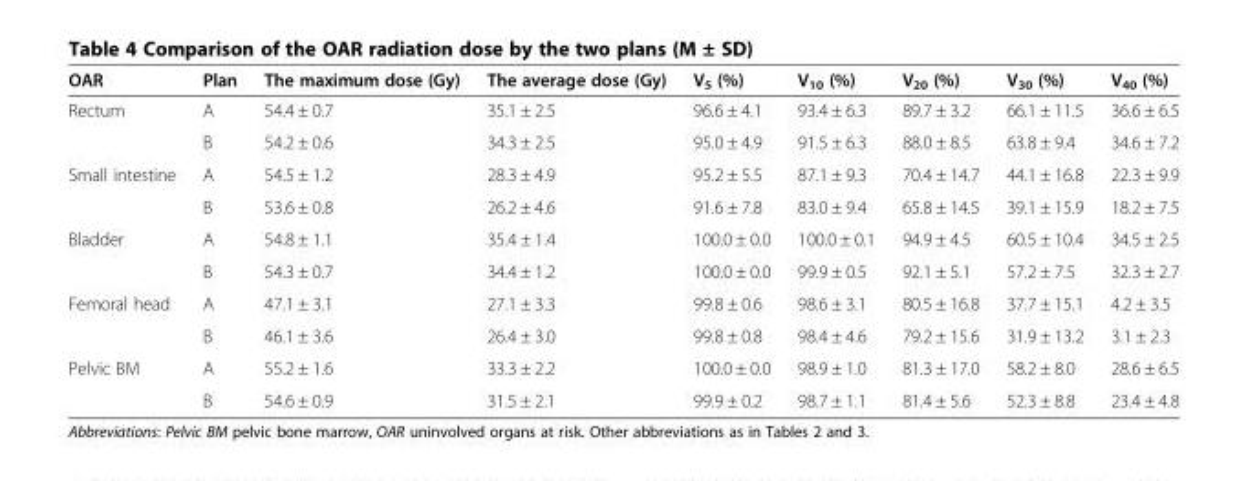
<table><thead><tr><td>OAR</td><td>Plan</td><td>The maximum dose (Gy)</td><td>The average dose (Gy)</td><td>V<sub>5</sub> (%)</td><td>V<sub>10</sub> (%)</td><td>V<sub>20</sub> (%)</td><td>V<sub>30</sub> (%)</td><td>V<sub>40</sub> (%)</td></tr></thead><tbody><tr><td rowspan="2">Rectum</td><td>A</td><td>54.4 ± 0.7</td><td>35.1 ± 2.5</td><td>96.6 ± 4.1</td><td>93.4 ± 6.3</td><td>89.7 ± 3.2</td><td>66.1 ± 11.5</td><td>36.6 ± 6.5</td></tr><tr><td>B</td><td>54.2 ± 0.6</td><td>34.3 ± 2.5</td><td>95.0 ± 4.9</td><td>91.5 ± 6.3</td><td>88.0 ± 8.5</td><td>63.8 ± 9.4</td><td>34.6 ± 7.2</td></tr><tr><td rowspan="2">Small intestine</td><td>A</td><td>54.5 ± 1.2</td><td>28.3 ± 4.9</td><td>95.2 ± 5.5</td><td>87.1 ± 9.3</td><td>70.4 ± 14.7</td><td>44.1 ± 16.8</td><td>22.3 ± 9.9</td></tr><tr><td>B</td><td>53.6 ± 0.8</td><td>26.2 ± 4.6</td><td>91.6 ± 7.8</td><td>83.0 ± 9.4</td><td>65.8 ± 14.5</td><td>39.1 ± 15.9</td><td>18.2 ± 7.5</td></tr><tr><td rowspan="2">Bladder</td><td>A</td><td>54.8 ± 1.1</td><td>35.4 ± 1.4</td><td>100.0 ± 0.0</td><td>100.0 ± 0.1</td><td>94.9 ± 4.5</td><td>60.5 ± 10.4</td><td>34.5 ± 2.5</td></tr><tr><td>B</td><td>54.3 ± 0.7</td><td>34.4 ± 1.2</td><td>100.0 ± 0.0</td><td>99.9 ± 0.5</td><td>92.1 ± 5.1</td><td>57.2 ± 7.5</td><td>32.3 ± 2.7</td></tr><tr><td rowspan="2">Femoral head</td><td>A</td><td>47.1 ± 3.1</td><td>27.1 ± 3.3</td><td>99.8 ± 0.6</td><td>98.6 ± 3.1</td><td>80.5 ± 16.8</td><td>37.7 ± 15.1</td><td>4.2 ± 3.5</td></tr><tr><td>B</td><td>46.1 ± 3.6</td><td>26.4 ± 3.0</td><td>99.8 ± 0.8</td><td>98.4 ± 4.6</td><td>79.2 ± 15.6</td><td>31.9 ± 13.2</td><td>3.1 ± 2.3</td></tr><tr><td rowspan="2">Pelvic BM</td><td>A</td><td>55.2 ± 1.6</td><td>33.3 ± 2.2</td><td>100.0 ± 0.0</td><td>98.9 ± 1.0</td><td>81.3 ± 17.0</td><td>58.2 ± 8.0</td><td>28.6 ± 6.5</td></tr><tr><td>B</td><td>54.6 ± 0.9</td><td>31.5 ± 2.1</td><td>99.9 ± 0.2</td><td>98.7 ± 1.1</td><td>81.4 ± 5.6</td><td>52.3 ± 8.8</td><td>23.4 ± 4.8</td></tr></tbody></table>